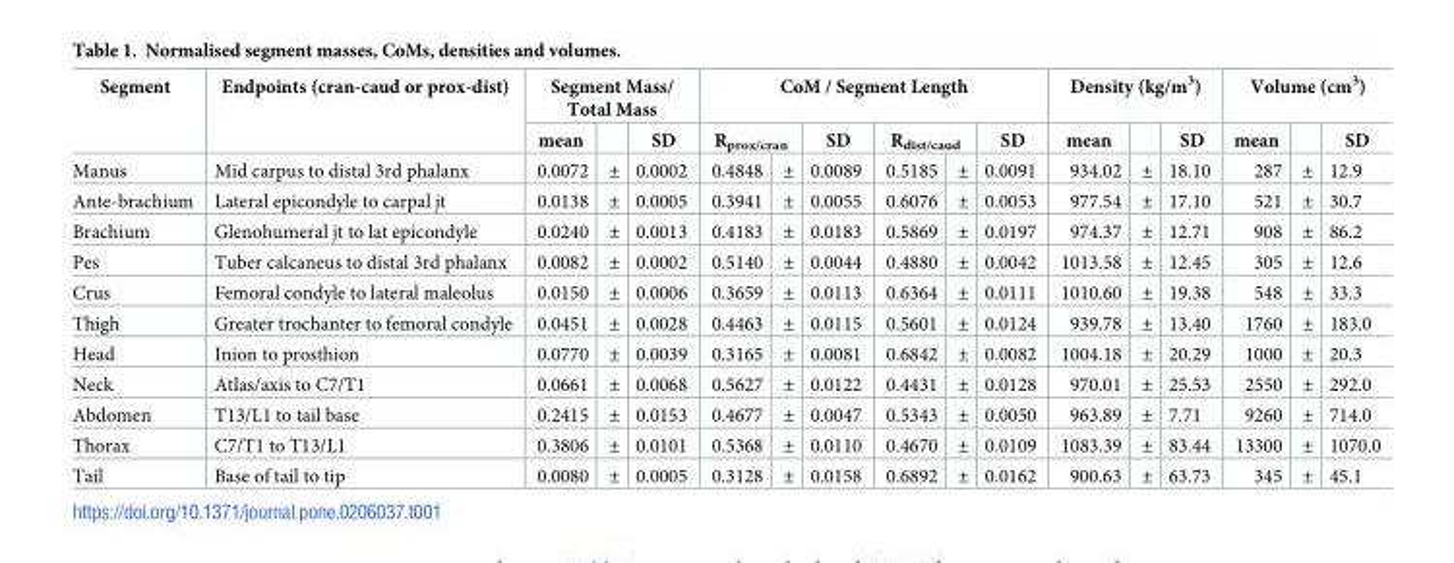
<table><thead><tr><td rowspan="3">Segment Manus</td><td rowspan="3">Endpoints (cran-caud or prox-dist) Mid carpus to distal 3rd phalanx</td><td colspan="3">Segment Mass/ Total Mass</td><td colspan="6">CoM / Segment Length</td><td colspan="3">Density (kg/m<sup>3</sup>)</td><td colspan="3">Volume (cm<sup>3</sup>)</td></tr><tr><td rowspan="2">mean 0.0072</td><td rowspan="2">±</td><td rowspan="2">SD 0.0002</td><td colspan="2">R<sub>prox/cran</sub></td><td rowspan="2">SD 0.0089</td><td colspan="2">R<sub>dist/caud</sub></td><td rowspan="2">SD 0.0091</td><td rowspan="2">mean 934.02</td><td rowspan="2">±</td><td rowspan="2">SD 18.10</td><td rowspan="2">mean 287</td><td rowspan="2">±</td><td rowspan="2">SD 12.9</td></tr><tr><td>0.4848</td><td>±</td><td>0.5185</td><td>±</td></tr></thead><tbody><tr><td>Ante-brachium</td><td>Lateral epicondyle to carpal jt</td><td>0.0138</td><td>±</td><td>0.0005</td><td>0.3941</td><td>±</td><td>0.0055</td><td>0.6076</td><td>±</td><td>0.0053</td><td>977.54</td><td>±</td><td>17.10</td><td>521</td><td>±</td><td>30.7</td></tr><tr><td>Brachium</td><td>Glenohumeral jt to lat epicondyle</td><td>0.0240</td><td>±</td><td>0.0013</td><td>0.4183</td><td>±</td><td>0.0183</td><td>0.5869</td><td>±</td><td>0.0197</td><td>974.37</td><td>±</td><td>12.71</td><td>908</td><td>±</td><td>86.2</td></tr><tr><td>Pes</td><td>Tuber calcaneus to distal 3rd phalanx</td><td>0.0082</td><td>±</td><td>0.0002</td><td>0.5140</td><td>±</td><td>0.0044</td><td>0.4880</td><td>±</td><td>0.0042</td><td>1013.58</td><td>±</td><td>12.45</td><td>305</td><td>±</td><td>12.6</td></tr><tr><td>Crus</td><td>Femoral condyle to lateral maleolus</td><td>0.0150</td><td>±</td><td>0.0006</td><td>0.3659</td><td>±</td><td>0.0113</td><td>0.6364</td><td>±</td><td>0.0111</td><td>1010.60</td><td>±</td><td>19.38</td><td>548</td><td>±</td><td>33.3</td></tr><tr><td>Thigh</td><td>Greater trochanter to femoral condyle</td><td>0.0451</td><td>±</td><td>0.0028</td><td>0.4463</td><td>±</td><td>0.0115</td><td>0.5601</td><td>±</td><td>0.0124</td><td>939.78</td><td>±</td><td>13.40</td><td>1760</td><td>±</td><td>183.0</td></tr><tr><td>Head</td><td>Inion to prosthion</td><td>0.0770</td><td>±</td><td>0.0039</td><td>0.3165</td><td>±</td><td>0.0081</td><td>0.6842</td><td>±</td><td>0.0082</td><td>1004.18</td><td>±</td><td>20.29</td><td>1000</td><td>±</td><td>20.3</td></tr><tr><td>Neck</td><td>Atlas/axis to C7/T1</td><td>0.0661</td><td>±</td><td>0.0068</td><td>0.5627</td><td>±</td><td>0.0122</td><td>0.4431</td><td>±</td><td>0.0128</td><td>970.01</td><td>±</td><td>25.53</td><td>2550</td><td>±</td><td>292.0</td></tr><tr><td>Abdomen</td><td>T13/L1 to tail base</td><td>0.2415</td><td>±</td><td>0.0153</td><td>0.4677</td><td>±</td><td>0.0047</td><td>0.5343</td><td>±</td><td>0.0050</td><td>963.89</td><td>±</td><td>7.71</td><td>9260</td><td>±</td><td>714.0</td></tr><tr><td>Thorax</td><td>C7/T1 to T13/L1</td><td>0.3806</td><td>±</td><td>0.0101</td><td>0.5368</td><td>±</td><td>0.0110</td><td>0.4670</td><td>±</td><td>0.0109</td><td>1083.39</td><td>±</td><td>83.44</td><td>13300</td><td>±</td><td>1070.0</td></tr><tr><td>Tail</td><td>Base of tail to tip</td><td>0.0080</td><td>±</td><td>0.0005</td><td>0.3128</td><td>±</td><td>0.0158</td><td>0.6892</td><td>±</td><td>0.0162</td><td>900.63</td><td>±</td><td>63.73</td><td>345</td><td>±</td><td>45.1</td></tr></tbody></table>